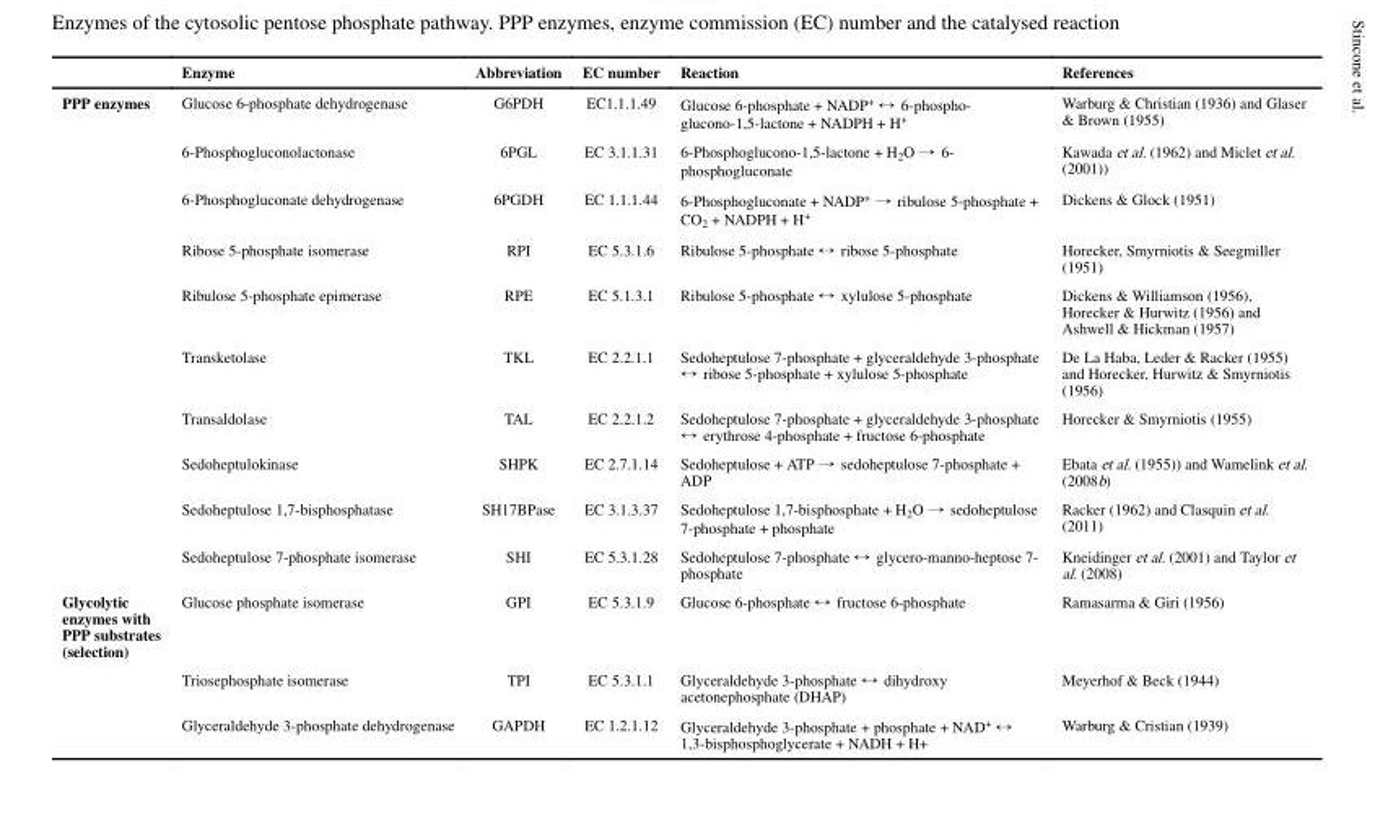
<table><thead><tr><td></td><td>Enzyme</td><td>Abbreviation</td><td>EC number</td><td>Reaction</td><td>References</td></tr></thead><tbody><tr><td rowspan="10">PPP enzymes</td><td>Glucose 6-phosphate dehydrogenase</td><td>G6PDH</td><td>EC1.1.1.49</td><td>Glucose 6-phosphate + NADP<sup>+</sup> ↔ 6-phospho- glucono-1,5-lactone + NADPH + H<sup>+</sup></td><td>Warburg &amp; Christian (1936) and Glaser &amp; Brown (1955)</td></tr><tr><td>6-Phosphogluconolactonase</td><td>6PGL</td><td>EC 3.1.1.31</td><td>6-Phosphoglucono-1,5-lactone + H<sub>2</sub>O → 6- phosphogluconate</td><td>Kawada et al. (1962) and Miclet et al. (2001))</td></tr><tr><td>6-Phosphogluconate dehydrogenase</td><td>6PGDH</td><td>EC 1.1.1.44</td><td>6-Phosphogluconate + NADP<sup>+</sup> → ribulose 5-phosphate + CO<sub>2</sub> + NADPH + H<sup>+</sup></td><td>Dickens &amp; Glock (1951)</td></tr><tr><td>Ribose 5-phosphate isomerase</td><td>RPI</td><td>EC 5.3.1.6</td><td>Ribulose 5-phosphate ↔ ribose 5-phosphate</td><td>Horecker, Smyrniotis &amp; Seegmiller (1951)</td></tr><tr><td>Ribulose 5-phosphate epimerase</td><td>RPE</td><td>EC 5.1.3.1</td><td>Ribulose 5-phosphate ↔ xylulose 5-phosphate</td><td>Dickens &amp; Williamson (1956), Horecker &amp; Hurwitz (1956) and Ashwell &amp; Hickman (1957)</td></tr><tr><td>Transketolase</td><td>TKL</td><td>EC 2.2.1.1</td><td>Sedoheptulose 7-phosphate + glyceraldehyde 3-phosphate ↔ ribose 5-phosphate + xylulose 5-phosphate</td><td>De La Haba, Leder &amp; Racker (1955) and Horecker, Hurwitz &amp; Smyrniotis (1956)</td></tr><tr><td>Transaldolase</td><td>TAL</td><td>EC 2.2.1.2</td><td>Sedoheptulose 7-phosphate + glyceraldehyde 3-phosphate ↔ erythrose 4-phosphate + fructose 6-phosphate</td><td>Horecker &amp; Smyrniotis (1955)</td></tr><tr><td>Sedoheptulokinase</td><td>SHPK</td><td>EC 2.7.1.14</td><td>Sedoheptulose + ATP → sedoheptulose 7-phosphate + ADP</td><td>Ebata et al. (1955)) and Wamelink et al. (2008b)</td></tr><tr><td>Sedoheptulose 1,7-bisphosphatase</td><td>SH17BPase</td><td>EC 3.1.3.37</td><td>Sedoheptulose 1,7-bisphosphate + H<sub>2</sub>O → sedoheptulose 7-phosphate + phosphate</td><td>Racker (1962) and Clasquin et al. (2011)</td></tr><tr><td>Sedoheptulose 7-phosphate isomerase</td><td>SHI</td><td>EC 5.3.1.28</td><td>Sedoheptulose 7-phosphate ↔ glycero-manno-heptose 7- phosphate</td><td>Kneidinger et al. (2001) and Taylor et al. (2008)</td></tr><tr><td rowspan="3">Glycolytic enzymes with PPP substrates (selection)</td><td>Glucose phosphate isomerase</td><td>GPI</td><td>EC 5.3.1.9</td><td>Glucose 6-phosphate ↔ fructose 6-phosphate</td><td>Ramasarma &amp; Giri (1956)</td></tr><tr><td>Triosephosphate isomerase</td><td>TPI</td><td>EC 5.3.1.1</td><td>Glyceraldehyde 3-phosphate ↔ dihydroxy acetonephosphate (DHAP)</td><td>Meyerhof &amp; Beck (1944)</td></tr><tr><td>Glyceraldehyde 3-phosphate dehydrogenase</td><td>GAPDH</td><td>EC 1.2.1.12</td><td>Glyceraldehyde 3-phosphate + phosphate + NAD<sup>+</sup> ↔ 1,3-bisphosphoglycerate + NADH + H+</td><td>Warburg &amp; Cristian (1939)</td></tr></tbody></table>